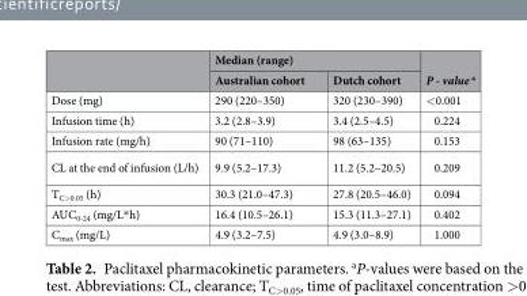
<table><thead><tr><td rowspan="2"></td><td colspan="2">Median (range)</td><td rowspan="2">P - value <sup>a</sup></td></tr><tr><td>Australian cohort</td><td>Dutch cohort</td></tr></thead><tbody><tr><td>Dose (mg)</td><td>290 (220–350)</td><td>320 (230–390)</td><td>&lt;0.001</td></tr><tr><td>Infusion time (h)</td><td>3.2 (2.8–3.9)</td><td>3.4 (2.5–4.5)</td><td>0.224</td></tr><tr><td>Infusion rate (mg/h)</td><td>90 (71–110)</td><td>98 (63–135)</td><td>0.153</td></tr><tr><td>CL at the end of infusion (L/h)</td><td>9.9 (5.2–17.3)</td><td>11.2 (5.2–20.5)</td><td>0.209</td></tr><tr><td>T<sub>C&gt;0.05</sub> (h)</td><td>30.3 (21.0–47.3)</td><td>27.8 (20.5–46.0)</td><td>0.094</td></tr><tr><td>AUC<sub>0-24</sub> (mg/L*h)</td><td>16.4 (10.5–26.1)</td><td>15.3 (11.3–27.1)</td><td>0.402</td></tr><tr><td>C<sub>max</sub> (mg/L)</td><td>4.9 (3.2–7.5)</td><td>4.9 (3.0–8.9)</td><td>1.000</td></tr></tbody></table>